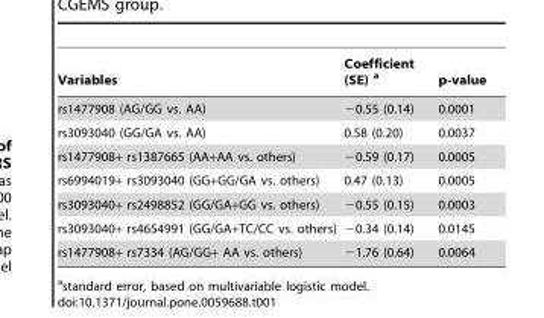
<table><thead><tr><td>Variables</td><td>Coefficient (SE) a</td><td>p-value</td></tr></thead><tbody><tr><td>rs1477908 (AG/GG vs. AA)</td><td>−0.55 (0.14)</td><td>0.0001</td></tr><tr><td>rs3093040 (GG/GA vs. AA)</td><td>0.58 (0.20)</td><td>0.0037</td></tr><tr><td>rs1477908+ rs1387665 (AA+AA vs. others)</td><td>−0.59 (0.17)</td><td>0.0005</td></tr><tr><td>rs6994019+ rs3093040 (GG+GG/GA vs. others)</td><td>0.47 (0.13)</td><td>0.0005</td></tr><tr><td>rs3093040+ rs2498852 (GG/GA+GG vs. others)</td><td>−0.55 (0.15)</td><td>0.0003</td></tr><tr><td>rs3093040+ rs4654991 (GG/GA+TC/CC vs. others)</td><td>−0.34 (0.14)</td><td>0.0145</td></tr><tr><td>rs1477908+ rs7334 (AG/GG+ AA vs. others)</td><td>−1.76 (0.64)</td><td>0.0064</td></tr></tbody></table>